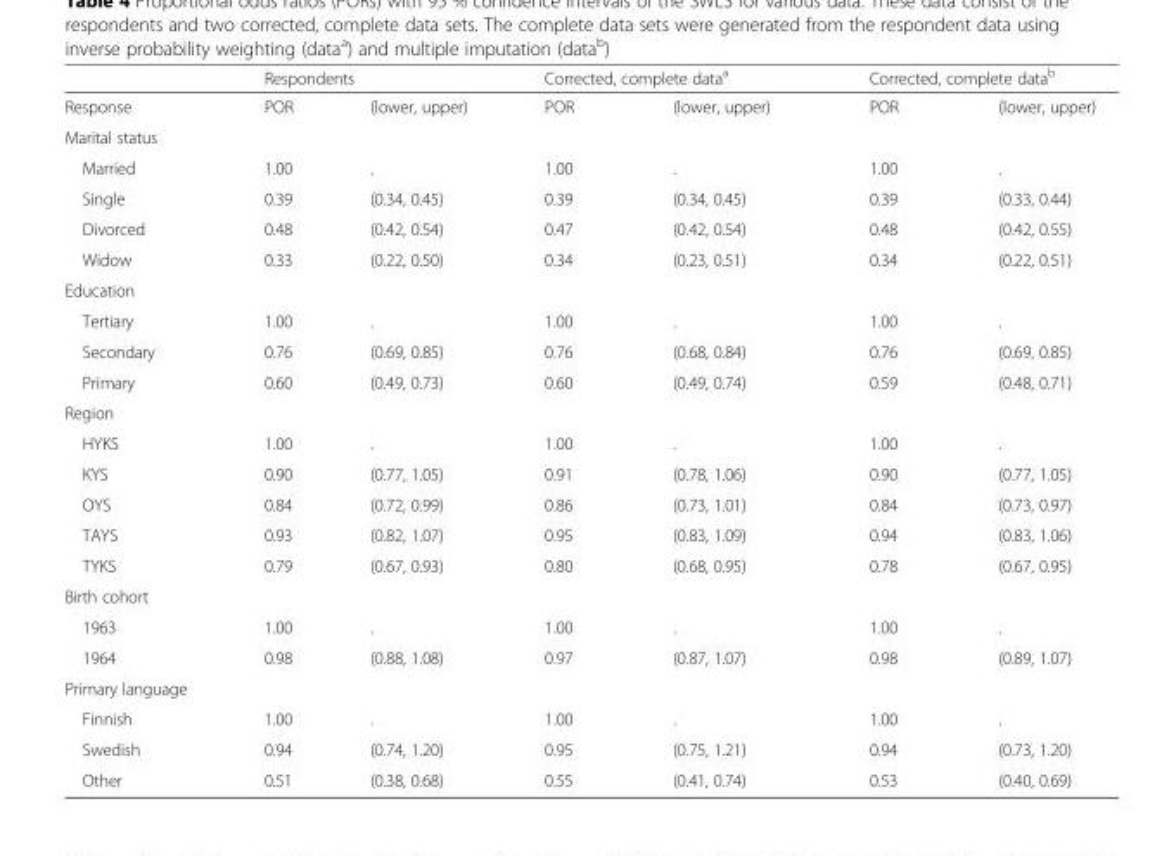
<table><thead><tr><td rowspan="2">Response</td><td colspan="2">Respondents</td><td colspan="2">Corrected, complete data<sup>a</sup></td><td colspan="2">Corrected, complete data<sup>b</sup></td></tr><tr><td>POR</td><td>(lower, upper)</td><td>POR</td><td>(lower, upper)</td><td>POR</td><td>(lower, upper)</td></tr></thead><tbody><tr><td colspan="7">Marital status</td></tr><tr><td>Married</td><td>1.00</td><td>.</td><td>1.00</td><td>.</td><td>1.00</td><td>.</td></tr><tr><td>Single</td><td>0.39</td><td>(0.34, 0.45)</td><td>0.39</td><td>(0.34, 0.45)</td><td>0.39</td><td>(0.33, 0.44)</td></tr><tr><td>Divorced</td><td>0.48</td><td>(0.42, 0.54)</td><td>0.47</td><td>(0.42, 0.54)</td><td>0.48</td><td>(0.42, 0.55)</td></tr><tr><td>Widow</td><td>0.33</td><td>(0.22, 0.50)</td><td>0.34</td><td>(0.23, 0.51)</td><td>0.34</td><td>(0.22, 0.51)</td></tr><tr><td colspan="7">Education</td></tr><tr><td>Tertiary</td><td>1.00</td><td>.</td><td>1.00</td><td>.</td><td>1.00</td><td>.</td></tr><tr><td>Secondary</td><td>0.76</td><td>(0.69, 0.85)</td><td>0.76</td><td>(0.68, 0.84)</td><td>0.76</td><td>(0.69, 0.85)</td></tr><tr><td>Primary</td><td>0.60</td><td>(0.49, 0.73)</td><td>0.60</td><td>(0.49, 0.74)</td><td>0.59</td><td>(0.48, 0.71)</td></tr><tr><td colspan="7">Region</td></tr><tr><td>HYKS</td><td>1.00</td><td>.</td><td>1.00</td><td>.</td><td>1.00</td><td>.</td></tr><tr><td>KYS</td><td>0.90</td><td>(0.77, 1.05)</td><td>0.91</td><td>(0.78, 1.06)</td><td>0.90</td><td>(0.77, 1.05)</td></tr><tr><td>OYS</td><td>0.84</td><td>(0.72, 0.99)</td><td>0.86</td><td>(0.73, 1.01)</td><td>0.84</td><td>(0.73, 0.97)</td></tr><tr><td>TAYS</td><td>0.93</td><td>(0.82, 1.07)</td><td>0.95</td><td>(0.83, 1.09)</td><td>0.94</td><td>(0.83, 1.06)</td></tr><tr><td>TYKS</td><td>0.79</td><td>(0.67, 0.93)</td><td>0.80</td><td>(0.68, 0.95)</td><td>0.78</td><td>(0.67, 0.95)</td></tr><tr><td colspan="7">Birth cohort</td></tr><tr><td>1963</td><td>1.00</td><td>.</td><td>1.00</td><td>.</td><td>1.00</td><td>.</td></tr><tr><td>1964</td><td>0.98</td><td>(0.88, 1.08)</td><td>0.97</td><td>(0.87, 1.07)</td><td>0.98</td><td>(0.89, 1.07)</td></tr><tr><td colspan="7">Primary language</td></tr><tr><td>Finnish</td><td>1.00</td><td>.</td><td>1.00</td><td>.</td><td>1.00</td><td>.</td></tr><tr><td>Swedish</td><td>0.94</td><td>(0.74, 1.20)</td><td>0.95</td><td>(0.75, 1.21)</td><td>0.94</td><td>(0.73, 1.20)</td></tr><tr><td>Other</td><td>0.51</td><td>(0.38, 0.68)</td><td>0.55</td><td>(0.41, 0.74)</td><td>0.53</td><td>(0.40, 0.69)</td></tr></tbody></table>